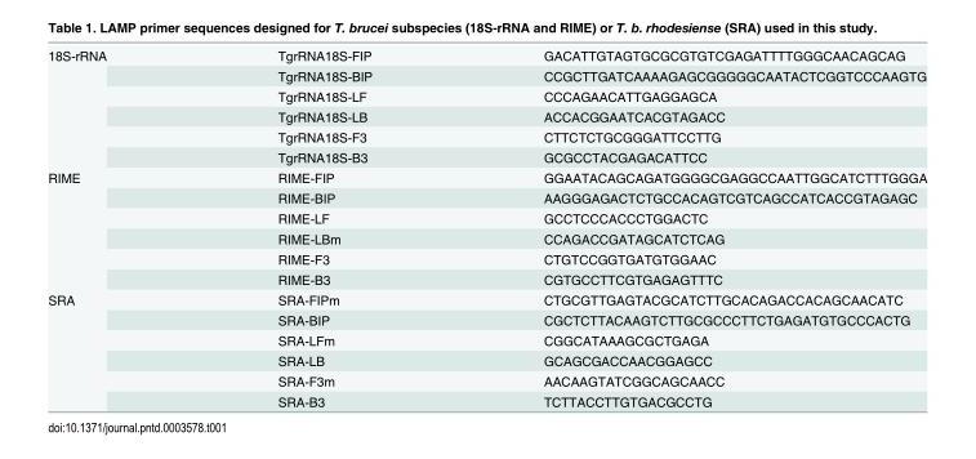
<table><tbody><tr><td rowspan="6">18S-rRNA</td><td>TgrRNA18S-FIP</td><td>GACATTGTAGTGCGCGTGTCGAGATTTTGGGCAACAGCAG</td></tr><tr><td>TgrRNA18S-BIP</td><td>CCGCTTGATCAAAAGAGCGGGGGCAATACTCGGTCCCAAGTG</td></tr><tr><td>TgrRNA18S-LF</td><td>CCCAGAACATTGAGGAGCA</td></tr><tr><td>TgrRNA18S-LB</td><td>ACCACGGAATCACGTAGACC</td></tr><tr><td>TgrRNA18S-F3</td><td>CTTCTCTGCGGGATTCCTTG</td></tr><tr><td>TgrRNA18S-B3</td><td>GCGCCTACGAGACATTCC</td></tr><tr><td rowspan="6">RIME</td><td>RIME-FIP</td><td>GGAATACAGCAGATGGGGCGAGGCCAATTGGCATCTTTGGGA</td></tr><tr><td>RIME-BIP</td><td>AAGGGAGACTCTGCCACAGTCGTCAGCCATCACCGTAGAGC</td></tr><tr><td>RIME-LF</td><td>GCCTCCCACCCTGGACTC</td></tr><tr><td>RIME-LBm</td><td>CCAGACCGATAGCATCTCAG</td></tr><tr><td>RIME-F3</td><td>CTGTCCGGTGATGTGGAAC</td></tr><tr><td>RIME-B3</td><td>CGTGCCTTCGTGAGAGTTTC</td></tr><tr><td rowspan="6">SRA</td><td>SRA-FIPm</td><td>CTGCGTTGAGTACGCATCTTGCACAGACCACAGCAACATC</td></tr><tr><td>SRA-BIP</td><td>CGCTCTTACAAGTCTTGCGCCCTTCTGAGATGTGCCCACTG</td></tr><tr><td>SRA-LFm</td><td>CGGCATAAAGCGCTGAGA</td></tr><tr><td>SRA-LB</td><td>GCAGCGACCAACGGAGCC</td></tr><tr><td>SRA-F3m</td><td>AACAAGTATCGGCAGCAACC</td></tr><tr><td>SRA-B3</td><td>TCTTACCTTGTGACGCCTG</td></tr></tbody></table>